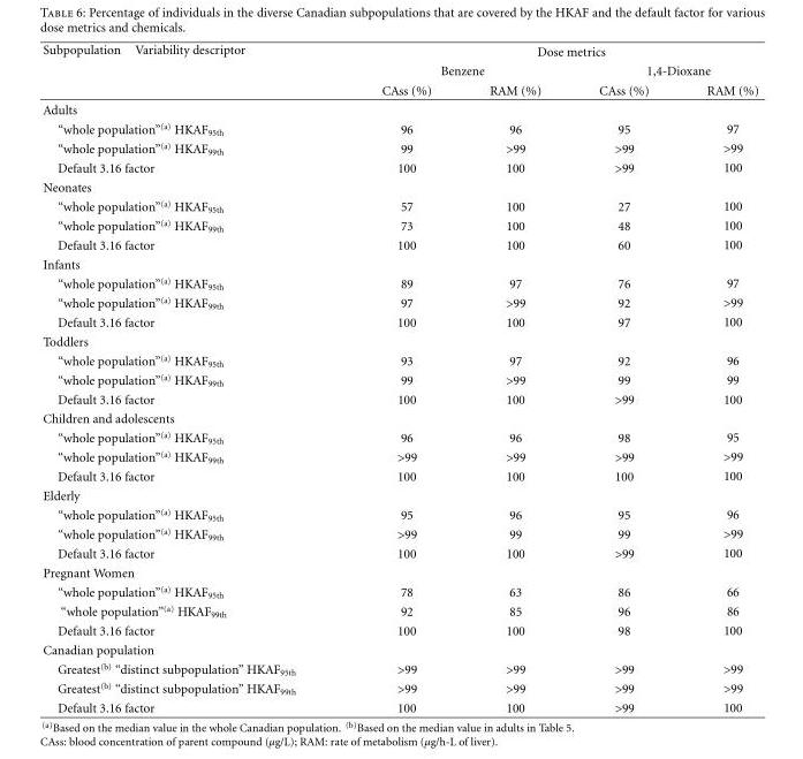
<table><thead><tr><td rowspan="3">Subpopulation Variability descriptor</td><td colspan="4">Dose metrics</td></tr><tr><td colspan="2">Benzene</td><td colspan="2">1,4-Dioxane</td></tr><tr><td>CAss (%)</td><td>RAM (%)</td><td>CAss (%)</td><td>RAM (%)</td></tr></thead><tbody><tr><td colspan="5">Adults</td></tr><tr><td>“whole population”<sup>(a)</sup> HKAF<sub>95th</sub></td><td>96</td><td>96</td><td>95</td><td>97</td></tr><tr><td>“whole population”<sup>(a)</sup> HKAF<sub>99th</sub></td><td>99</td><td>&gt;99</td><td>&gt;99</td><td>&gt;99</td></tr><tr><td>Default 3.16 factor</td><td>100</td><td>100</td><td>&gt;99</td><td>100</td></tr><tr><td colspan="5">Neonates</td></tr><tr><td>“whole population”<sup>(a)</sup> HKAF<sub>95th</sub></td><td>57</td><td>100</td><td>27</td><td>100</td></tr><tr><td>“whole population”<sup>(a)</sup> HKAF<sub>99th</sub></td><td>73</td><td>100</td><td>48</td><td>100</td></tr><tr><td>Default 3.16 factor</td><td>100</td><td>100</td><td>60</td><td>100</td></tr><tr><td colspan="5">Infants</td></tr><tr><td>“whole population”<sup>(a)</sup> HKAF<sub>95th</sub></td><td>89</td><td>97</td><td>76</td><td>97</td></tr><tr><td>“whole population”<sup>(a)</sup> HKAF<sub>99th</sub></td><td>97</td><td>&gt;99</td><td>92</td><td>&gt;99</td></tr><tr><td>Default 3.16 factor</td><td>100</td><td>100</td><td>97</td><td>100</td></tr><tr><td colspan="5">Toddlers</td></tr><tr><td>“whole population”<sup>(a)</sup> HKAF<sub>95th</sub></td><td>93</td><td>97</td><td>92</td><td>96</td></tr><tr><td>“whole population”<sup>(a)</sup> HKAF<sub>99th</sub></td><td>99</td><td>&gt;99</td><td>99</td><td>99</td></tr><tr><td>Default 3.16 factor</td><td>100</td><td>100</td><td>&gt;99</td><td>100</td></tr><tr><td colspan="5">Children and adolescents</td></tr><tr><td>“whole population”<sup>(a)</sup> HKAF<sub>95th</sub></td><td>96</td><td>96</td><td>98</td><td>95</td></tr><tr><td>“whole population”<sup>(a)</sup> HKAF<sub>99th</sub></td><td>&gt;99</td><td>&gt;99</td><td>&gt;99</td><td>&gt;99</td></tr><tr><td>Default 3.16 factor</td><td>100</td><td>100</td><td>100</td><td>100</td></tr><tr><td colspan="5">Elderly</td></tr><tr><td>“whole population”<sup>(a)</sup> HKAF<sub>95th</sub></td><td>95</td><td>96</td><td>95</td><td>96</td></tr><tr><td>“whole population”<sup>(a)</sup> HKAF<sub>99th</sub></td><td>&gt;99</td><td>99</td><td>99</td><td>&gt;99</td></tr><tr><td>Default 3.16 factor</td><td>100</td><td>100</td><td>&gt;99</td><td>100</td></tr><tr><td colspan="5">Pregnant Women</td></tr><tr><td>“whole population”<sup>(a)</sup> HKAF<sub>95th</sub></td><td>78</td><td>63</td><td>86</td><td>66</td></tr><tr><td>“whole population”<sup>(a)</sup> HKAF<sub>99th</sub></td><td>92</td><td>85</td><td>96</td><td>86</td></tr><tr><td>Default 3.16 factor</td><td>100</td><td>100</td><td>98</td><td>100</td></tr><tr><td colspan="5">Canadian population</td></tr><tr><td>Greatest<sup>(b)</sup> “distinct subpopulation” HKAF<sub>95th</sub></td><td>&gt;99</td><td>&gt;99</td><td>&gt;99</td><td>&gt;99</td></tr><tr><td>Greatest<sup>(b)</sup> “distinct subpopulation” HKAF<sub>99th</sub></td><td>&gt;99</td><td>&gt;99</td><td>&gt;99</td><td>&gt;99</td></tr><tr><td>Default 3.16 factor</td><td>100</td><td>100</td><td>&gt;99</td><td>100</td></tr></tbody></table>